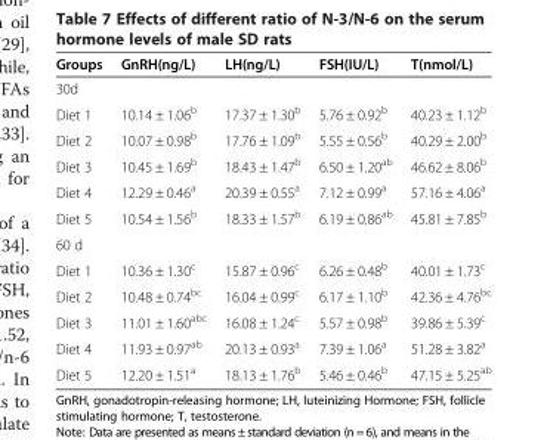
<table><thead><tr><td>Groups</td><td>GnRH(ng/L)</td><td>LH(ng/L)</td><td>FSH(IU/L)</td><td>T(nmol/L)</td></tr></thead><tbody><tr><td colspan="5">30d</td></tr><tr><td>Diet 1</td><td>10.14 ± 1.06<sup>b</sup></td><td>17.37 ± 1.30<sup>b</sup></td><td>5.76 ± 0.92<sup>b</sup></td><td>40.23 ± 1.12<sup>b</sup></td></tr><tr><td>Diet 2</td><td>10.07 ± 0.98<sup>b</sup></td><td>17.76 ± 1.09<sup>b</sup></td><td>5.55 ± 0.56<sup>b</sup></td><td>40.29 ± 2.00<sup>b</sup></td></tr><tr><td>Diet 3</td><td>10.45 ± 1.69<sup>b</sup></td><td>18.43 ± 1.47<sup>b</sup></td><td>6.50 ± 1.20<sup>ab</sup></td><td>46.62 ± 8.06<sup>b</sup></td></tr><tr><td>Diet 4</td><td>12.29 ± 0.46<sup>a</sup></td><td>20.39 ± 0.55<sup>a</sup></td><td>7.12 ± 0.99<sup>a</sup></td><td>57.16 ± 4.06<sup>a</sup></td></tr><tr><td>Diet 5</td><td>10.54 ± 1.56<sup>b</sup></td><td>18.33 ± 1.57<sup>b</sup></td><td>6.19 ± 0.86<sup>ab</sup></td><td>45.81 ± 7.85<sup>b</sup></td></tr><tr><td colspan="5">60 d</td></tr><tr><td>Diet 1</td><td>10.36 ± 1.30<sup>c</sup></td><td>15.87 ± 0.96<sup>c</sup></td><td>6.26 ± 0.48<sup>b</sup></td><td>40.01 ± 1.73<sup>c</sup></td></tr><tr><td>Diet 2</td><td>10.48 ± 0.74<sup>bc</sup></td><td>16.04 ± 0.99<sup>c</sup></td><td>6.17 ± 1.10<sup>b</sup></td><td>42.36 ± 4.76<sup>bc</sup></td></tr><tr><td>Diet 3</td><td>11.01 ± 1.60<sup>abc</sup></td><td>16.08 ± 1.24<sup>c</sup></td><td>5.57 ± 0.98<sup>b</sup></td><td>39.86 ± 5.39<sup>c</sup></td></tr><tr><td>Diet 4</td><td>11.93 ± 0.97<sup>ab</sup></td><td>20.13 ± 0.93<sup>a</sup></td><td>7.39 ± 1.06<sup>a</sup></td><td>51.28 ± 3.82<sup>a</sup></td></tr><tr><td>Diet 5</td><td>12.20 ± 1.51<sup>a</sup></td><td>18.13 ± 1.76<sup>b</sup></td><td>5.46 ± 0.46<sup>b</sup></td><td>47.15 ± 5.25<sup>ab</sup></td></tr></tbody></table>